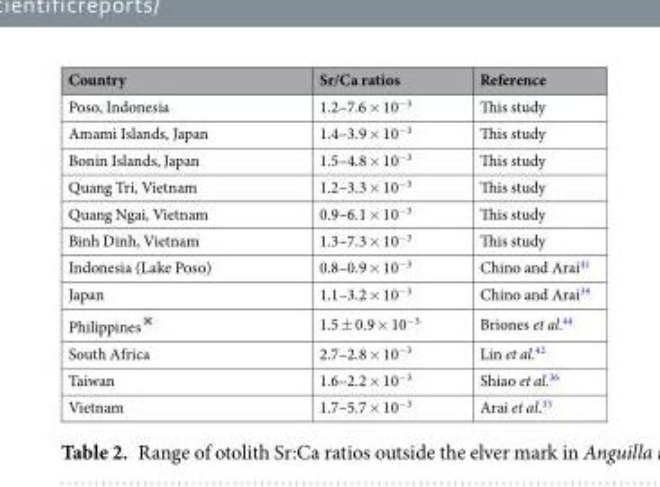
<table><thead><tr><td>Country</td><td>Sr/Ca ratios</td><td>Reference</td></tr></thead><tbody><tr><td>Poso, Indonesia</td><td>1.2–7.6 × 10<sup>−3</sup></td><td>This study</td></tr><tr><td>Amami Islands, Japan</td><td>1.4–3.9 × 10<sup>−3</sup></td><td>This study</td></tr><tr><td>Bonin Islands, Japan</td><td>1.5–4.8 × 10<sup>−3</sup></td><td>This study</td></tr><tr><td>Quang Tri, Vietnam</td><td>1.2–3.3 × 10<sup>−3</sup></td><td>This study</td></tr><tr><td>Quang Ngai, Vietnam</td><td>0.9–6.1 × 10<sup>−3</sup></td><td>This study</td></tr><tr><td>Binh Dinh, Vietnam</td><td>1.3–7.3 × 10<sup>−3</sup></td><td>This study</td></tr><tr><td>Indonesia (Lake Poso)</td><td>0.8–0.9 × 10<sup>−3</sup></td><td>Chino and Arai<sup>41</sup></td></tr><tr><td>Japan</td><td>1.1–3.2 × 10<sup>−3</sup></td><td>Chino and Arai<sup>39</sup></td></tr><tr><td>Philippines<sup>※</sup></td><td>1.5 ± 0.9 × 10<sup>−3</sup></td><td>Briones et al.<sup>44</sup></td></tr><tr><td>South Africa</td><td>2.7–2.8 × 10<sup>−3</sup></td><td>Lin et al.<sup>42</sup></td></tr><tr><td>Taiwan</td><td>1.6–2.2 × 10<sup>−3</sup></td><td>Shiao et al.<sup>36</sup></td></tr><tr><td>Vietnam</td><td>1.7–5.7 × 10<sup>−3</sup></td><td>Arai et al.<sup>33</sup></td></tr></tbody></table>